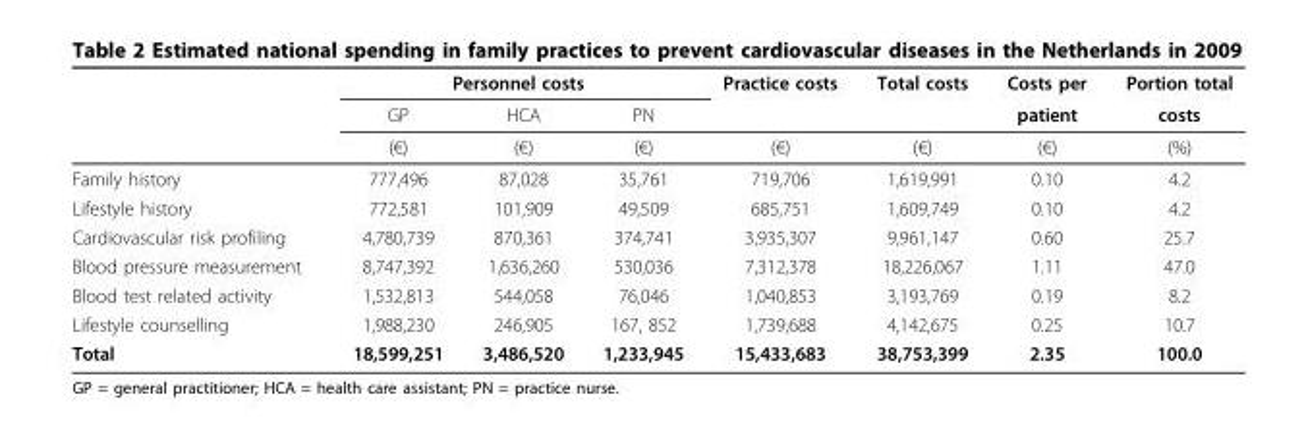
<table><thead><tr><td rowspan="3"></td><td colspan="3">Personnel costs</td><td rowspan="3">Practice costs (€)</td><td rowspan="3">Total costs (€)</td><td rowspan="3">Costs per patient (€)</td><td rowspan="3">Portion total costs (%)</td></tr><tr><td rowspan="2">GP (€)</td><td rowspan="2">HCA (€)</td><td rowspan="2">PN (€)</td></tr><tr></tr></thead><tbody><tr><td>Family history</td><td>777,496</td><td>87,028</td><td>35,761</td><td>719,706</td><td>1,619,991</td><td>0.10</td><td>4.2</td></tr><tr><td>Lifestyle history</td><td>772,581</td><td>101,909</td><td>49,509</td><td>685,751</td><td>1,609,749</td><td>0.10</td><td>4.2</td></tr><tr><td>Cardiovascular risk profiling</td><td>4,780,739</td><td>870,361</td><td>374,741</td><td>3,935,307</td><td>9,961,147</td><td>0.60</td><td>25.7</td></tr><tr><td>Blood pressure measurement</td><td>8,747,392</td><td>1,636,260</td><td>530,036</td><td>7,312,378</td><td>18,226,067</td><td>1.11</td><td>47.0</td></tr><tr><td>Blood test related activity</td><td>1,532,813</td><td>544,058</td><td>76,046</td><td>1,040,853</td><td>3,193,769</td><td>0.19</td><td>8.2</td></tr><tr><td>Lifestyle counselling</td><td>1,988,230</td><td>246,905</td><td>167, 852</td><td>1,739,688</td><td>4,142,675</td><td>0.25</td><td>10.7</td></tr><tr><td>Total</td><td>18,599,251</td><td>3,486,520</td><td>1,233,945</td><td>15,433,683</td><td>38,753,399</td><td>2.35</td><td>100.0</td></tr></tbody></table>